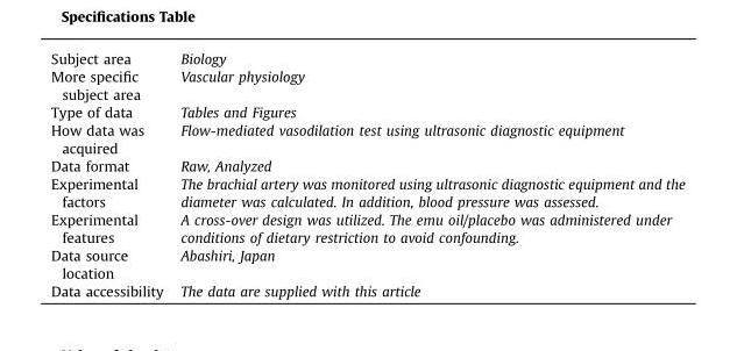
<table><tbody><tr><td>Subject area</td><td>Biology</td></tr><tr><td>More specific subject area</td><td>Vascular physiology</td></tr><tr><td>Type of data</td><td>Tables and Figures</td></tr><tr><td>How data was acquired</td><td>Flow-mediated vasodilation test using ultrasonic diagnostic equipment</td></tr><tr><td>Data format</td><td>Raw, Analyzed</td></tr><tr><td>Experimental factors</td><td>The brachial artery was monitored using ultrasonic diagnostic equipment and the diameter was calculated. In addition, blood pressure was assessed.</td></tr><tr><td>Experimental features</td><td>A cross-over design was utilized. The emu oil/placebo was administered under conditions of dietary restriction to avoid confounding.</td></tr><tr><td>Data source location</td><td>Abashiri, Japan</td></tr><tr><td>Data accessibility</td><td>The data are supplied with this article</td></tr></tbody></table>